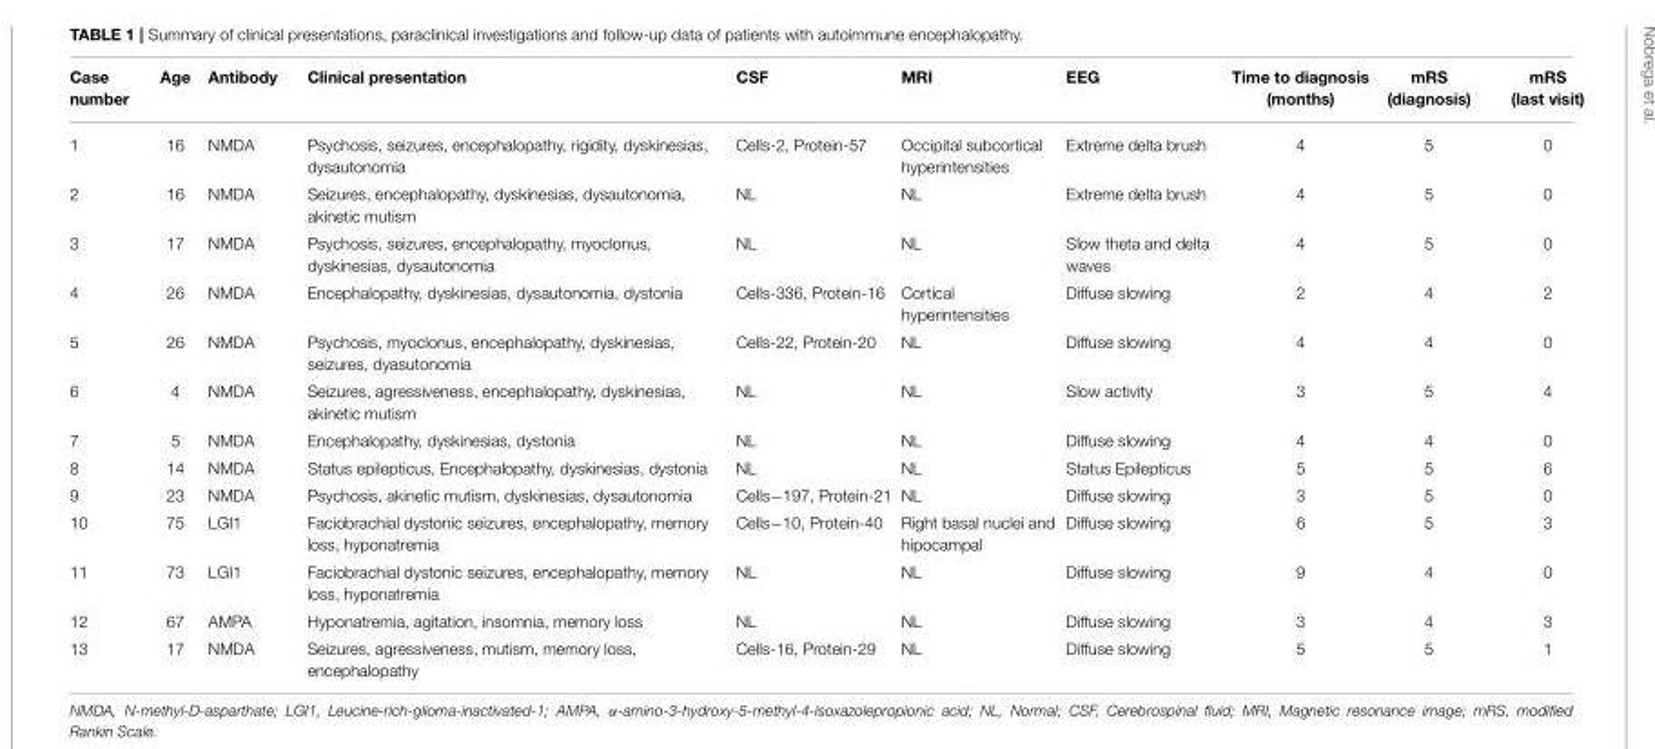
<table><thead><tr><td>Case number</td><td>Age</td><td>Antibody</td><td>Clinical presentation</td><td>CSF</td><td>MRI</td><td>EEG</td><td>Time to diagnosis (months)</td><td>mRS (diagnosis)</td><td>mRS (last visit)</td></tr></thead><tbody><tr><td>1</td><td>16</td><td>NMDA</td><td>Psychosis, seizures, encephalopathy, rigidity, dyskinesias, dysautonomia</td><td>Cells-2, Protein-57</td><td>Occipital subcortical hyperintensities</td><td>Extreme delta brush</td><td>4</td><td>5</td><td>0</td></tr><tr><td>2</td><td>16</td><td>NMDA</td><td>Seizures, encephalopathy, dyskinesias, dysautonomia, akinetic mutism</td><td>NL</td><td>NL</td><td>Extreme delta brush</td><td>4</td><td>5</td><td>0</td></tr><tr><td>3</td><td>17</td><td>NMDA</td><td>Psychosis, seizures, encephalopathy, myoclonus, dyskinesias, dysautonomia</td><td>NL</td><td>NL</td><td>Slow theta and delta waves</td><td>4</td><td>5</td><td>0</td></tr><tr><td>4</td><td>26</td><td>NMDA</td><td>Encephalopathy, dyskinesias, dysautonomia, dystonia</td><td>Cells-336, Protein-16</td><td>Cortical hyperintensities</td><td>Diffuse slowing</td><td>2</td><td>4</td><td>2</td></tr><tr><td>5</td><td>26</td><td>NMDA</td><td>Psychosis, myoclonus, encephalopathy, dyskinesias, seizures, dyasutonomia</td><td>Cells-22, Protein-20</td><td>NL</td><td>Diffuse slowing</td><td>4</td><td>4</td><td>0</td></tr><tr><td>6</td><td>4</td><td>NMDA</td><td>Seizures, agressiveness, encephalopathy, dyskinesias, akinetic mutism</td><td>NL</td><td>NL</td><td>Slow activity</td><td>3</td><td>5</td><td>4</td></tr><tr><td>7</td><td>5</td><td>NMDA</td><td>Encephalopathy, dyskinesias, dystonia</td><td>NL</td><td>NL</td><td>Diffuse slowing</td><td>4</td><td>4</td><td>0</td></tr><tr><td>8</td><td>14</td><td>NMDA</td><td>Status epilepticus, Encephalopathy, dyskinesias, dystonia</td><td>NL</td><td>NL</td><td>Status Epilepticus</td><td>5</td><td>5</td><td>6</td></tr><tr><td>9</td><td>23</td><td>NMDA</td><td>Psychosis, akinetic mutism, dyskinesias, dysautonomia</td><td>Cells−197, Protein-21</td><td>NL</td><td>Diffuse slowing</td><td>3</td><td>5</td><td>0</td></tr><tr><td>10</td><td>75</td><td>LGI1</td><td>Faciobrachial dystonic seizures, encephalopathy, memory loss, hyponatremia</td><td>Cells−10, Protein-40</td><td>Right basal nuclei and hipocampal</td><td>Diffuse slowing</td><td>6</td><td>5</td><td>3</td></tr><tr><td>11</td><td>73</td><td>LGI1</td><td>Faciobrachial dystonic seizures, encephalopathy, memory loss, hyponatremia</td><td>NL</td><td>NL</td><td>Diffuse slowing</td><td>9</td><td>4</td><td>0</td></tr><tr><td>12</td><td>67</td><td>AMPA</td><td>Hyponatremia, agitation, insomnia, memory loss</td><td>NL</td><td>NL</td><td>Diffuse slowing</td><td>3</td><td>4</td><td>3</td></tr><tr><td>13</td><td>17</td><td>NMDA</td><td>Seizures, agressiveness, mutism, memory loss, encephalopathy</td><td>Cells-16, Protein-29</td><td>NL</td><td>Diffuse slowing</td><td>5</td><td>5</td><td>1</td></tr></tbody></table>